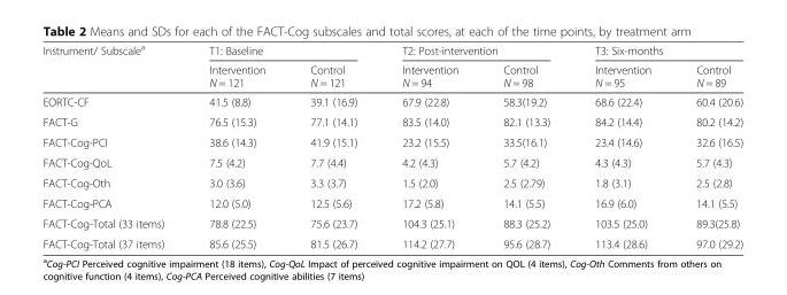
<table><thead><tr><td rowspan="2">Instrument/ Subscale<sup>a</sup></td><td colspan="2">T1: Baseline</td><td colspan="2">T2: Post-intervention</td><td colspan="2">T3: Six-months</td></tr><tr><td>Intervention N = 121</td><td>Control N = 121</td><td>Intervention N = 94</td><td>Control N = 98</td><td>Intervention N = 95</td><td>Control N = 89</td></tr></thead><tbody><tr><td>EORTC-CF</td><td>41.5 (8.8)</td><td>39.1 (16.9)</td><td>67.9 (22.8)</td><td>58.3(19.2)</td><td>68.6 (22.4)</td><td>60.4 (20.6)</td></tr><tr><td>FACT-G</td><td>76.5 (15.3)</td><td>77.1 (14.1)</td><td>83.5 (14.0)</td><td>82.1 (13.3)</td><td>84.2 (14.4)</td><td>80.2 (14.2)</td></tr><tr><td>FACT-Cog-PCI</td><td>38.6 (14.3)</td><td>41.9 (15.1)</td><td>23.2 (15.5)</td><td>33.5(16.1)</td><td>23.4 (14.6)</td><td>32.6 (16.5)</td></tr><tr><td>FACT-Cog-QoL</td><td>7.5 (4.2)</td><td>7.7 (4.4)</td><td>4.2 (4.3)</td><td>5.7 (4.2)</td><td>4.3 (4.3)</td><td>5.7 (4.3)</td></tr><tr><td>FACT-Cog-Oth</td><td>3.0 (3.6)</td><td>3.3 (3.7)</td><td>1.5 (2.0)</td><td>2.5 (2.79)</td><td>1.8 (3.1)</td><td>2.5 (2.8)</td></tr><tr><td>FACT-Cog-PCA</td><td>12.0 (5.0)</td><td>12.5 (5.6)</td><td>17.2 (5.8)</td><td>14.1 (5.5)</td><td>16.9 (6.0)</td><td>14.1 (5.5)</td></tr><tr><td>FACT-Cog-Total (33 items)</td><td>78.8 (22.5)</td><td>75.6 (23.7)</td><td>104.3 (25.1)</td><td>88.3 (25.2)</td><td>103.5 (25.0)</td><td>89.3(25.8)</td></tr><tr><td>FACT-Cog-Total (37 items)</td><td>85.6 (25.5)</td><td>81.5 (26.7)</td><td>114.2 (27.7)</td><td>95.6 (28.7)</td><td>113.4 (28.6)</td><td>97.0 (29.2)</td></tr></tbody></table>